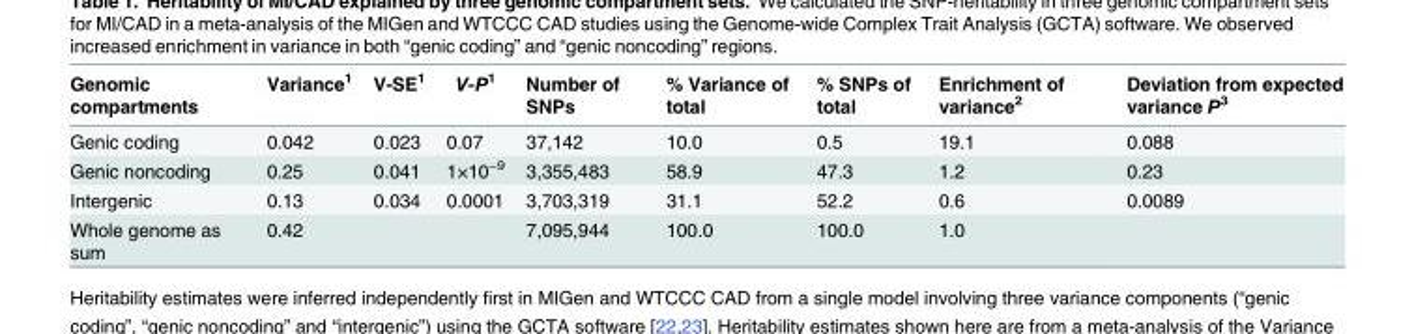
<table><thead><tr><td>Genomic compartments</td><td>Variance<sup>1</sup></td><td>V-SE<sup>1</sup></td><td>V-P<sup>1</sup></td><td>Number of SNPs</td><td>% Variance of total</td><td>% SNPs of total</td><td>Enrichment of variance<sup>2</sup></td><td>Deviation from expected variance P<sup>3</sup></td></tr></thead><tbody><tr><td>Genic coding</td><td>0.042</td><td>0.023</td><td>0.07</td><td>37,142</td><td>10.0</td><td>0.5</td><td>19.1</td><td>0.088</td></tr><tr><td>Genic noncoding</td><td>0.25</td><td>0.041</td><td>1×10<sup>−9</sup></td><td>3,355,483</td><td>58.9</td><td>47.3</td><td>1.2</td><td>0.23</td></tr><tr><td>Intergenic</td><td>0.13</td><td>0.034</td><td>0.0001</td><td>3,703,319</td><td>31.1</td><td>52.2</td><td>0.6</td><td>0.0089</td></tr><tr><td>Whole genome as sum</td><td>0.42</td><td></td><td></td><td>7,095,944</td><td>100.0</td><td>100.0</td><td>1.0</td><td></td></tr></tbody></table>